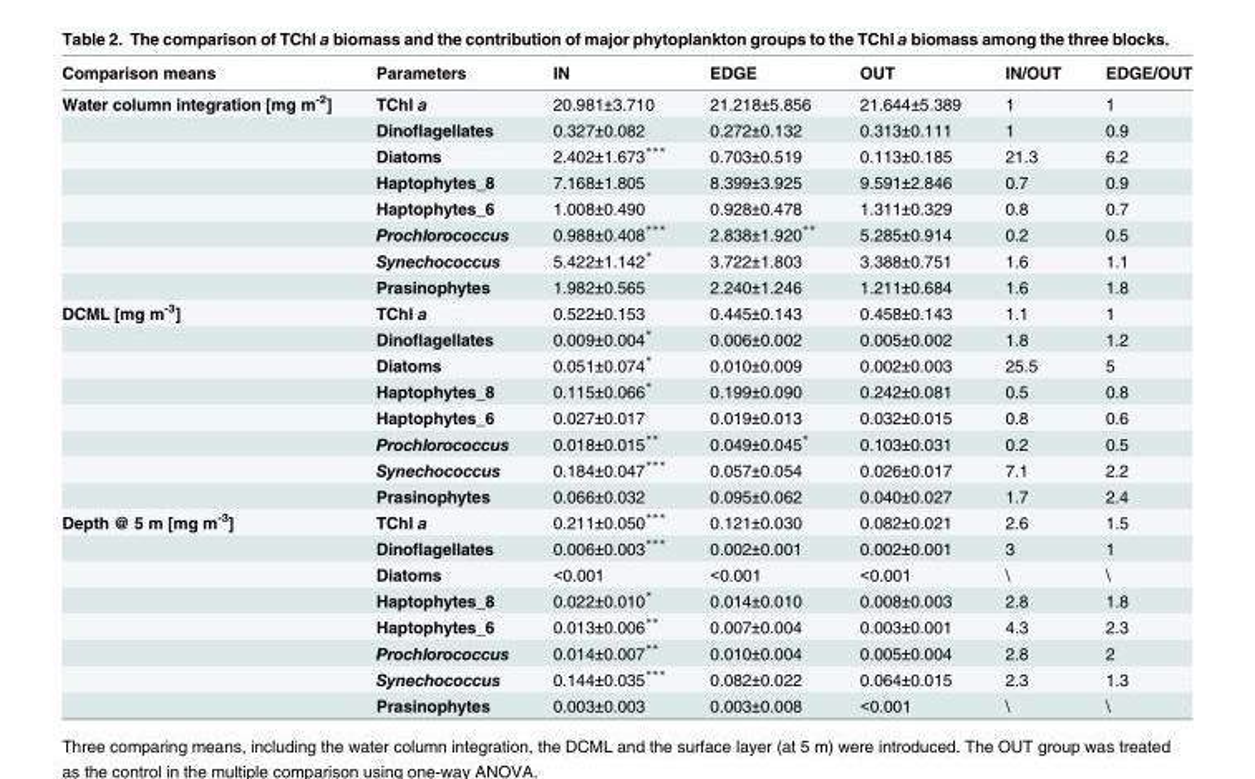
<table><thead><tr><td>Comparison means</td><td>Parameters</td><td>IN</td><td>EDGE</td><td>OUT</td><td>IN/OUT</td><td>EDGE/OUT</td></tr></thead><tbody><tr><td rowspan="8">Water column integration [mg m<sup>-2</sup>]</td><td>TChl a</td><td>20.981±3.710</td><td>21.218±5.856</td><td>21.644±5.389</td><td>1</td><td>1</td></tr><tr><td>Dinoflagellates</td><td>0.327±0.082</td><td>0.272±0.132</td><td>0.313±0.111</td><td>1</td><td>0.9</td></tr><tr><td>Diatoms</td><td>2.402±1.673***</td><td>0.703±0.519</td><td>0.113±0.185</td><td>21.3</td><td>6.2</td></tr><tr><td>Haptophytes_8</td><td>7.168±1.805</td><td>8.399±3.925</td><td>9.591±2.846</td><td>0.7</td><td>0.9</td></tr><tr><td>Haptophytes_6</td><td>1.008±0.490</td><td>0.928±0.478</td><td>1.311±0.329</td><td>0.8</td><td>0.7</td></tr><tr><td>Prochlorococcus</td><td>0.988±0.408***</td><td>2.838±1.920**</td><td>5.285±0.914</td><td>0.2</td><td>0.5</td></tr><tr><td>Synechococcus</td><td>5.422±1.142*</td><td>3.722±1.803</td><td>3.388±0.751</td><td>1.6</td><td>1.1</td></tr><tr><td>Prasinophytes</td><td>1.982±0.565</td><td>2.240±1.246</td><td>1.211±0.684</td><td>1.6</td><td>1.8</td></tr><tr><td rowspan="8">DCML [mg m<sup>-3</sup>]</td><td>TChl a</td><td>0.522±0.153</td><td>0.445±0.143</td><td>0.458±0.143</td><td>1.1</td><td>1</td></tr><tr><td>Dinoflagellates</td><td>0.009±0.004*</td><td>0.006±0.002</td><td>0.005±0.002</td><td>1.8</td><td>1.2</td></tr><tr><td>Diatoms</td><td>0.051±0.074*</td><td>0.010±0.009</td><td>0.002±0.003</td><td>25.5</td><td>5</td></tr><tr><td>Haptophytes_8</td><td>0.115±0.066*</td><td>0.199±0.090</td><td>0.242±0.081</td><td>0.5</td><td>0.8</td></tr><tr><td>Haptophytes_6</td><td>0.027±0.017</td><td>0.019±0.013</td><td>0.032±0.015</td><td>0.8</td><td>0.6</td></tr><tr><td>Prochlorococcus</td><td>0.018±0.015**</td><td>0.049±0.045*</td><td>0.103±0.031</td><td>0.2</td><td>0.5</td></tr><tr><td>Synechococcus</td><td>0.184±0.047***</td><td>0.057±0.054</td><td>0.026±0.017</td><td>7.1</td><td>2.2</td></tr><tr><td>Prasinophytes</td><td>0.066±0.032</td><td>0.095±0.062</td><td>0.040±0.027</td><td>1.7</td><td>2.4</td></tr><tr><td rowspan="8">Depth @ 5 m [mg m<sup>-3</sup>]</td><td>TChl a</td><td>0.211±0.050***</td><td>0.121±0.030</td><td>0.082±0.021</td><td>2.6</td><td>1.5</td></tr><tr><td>Dinoflagellates</td><td>0.006±0.003***</td><td>0.002±0.001</td><td>0.002±0.001</td><td>3</td><td>1</td></tr><tr><td>Diatoms</td><td>&lt;0.001</td><td>&lt;0.001</td><td>&lt;0.001</td><td>\</td><td>\</td></tr><tr><td>Haptophytes_8</td><td>0.022±0.010*</td><td>0.014±0.010</td><td>0.008±0.003</td><td>2.8</td><td>1.8</td></tr><tr><td>Haptophytes_6</td><td>0.013±0.006**</td><td>0.007±0.004</td><td>0.003±0.001</td><td>4.3</td><td>2.3</td></tr><tr><td>Prochlorococcus</td><td>0.014±0.007**</td><td>0.010±0.004</td><td>0.005±0.004</td><td>2.8</td><td>2</td></tr><tr><td>Synechococcus</td><td>0.144±0.035***</td><td>0.082±0.022</td><td>0.064±0.015</td><td>2.3</td><td>1.3</td></tr><tr><td>Prasinophytes</td><td>0.003±0.003</td><td>0.003±0.008</td><td>&lt;0.001</td><td>\</td><td>\</td></tr></tbody></table>